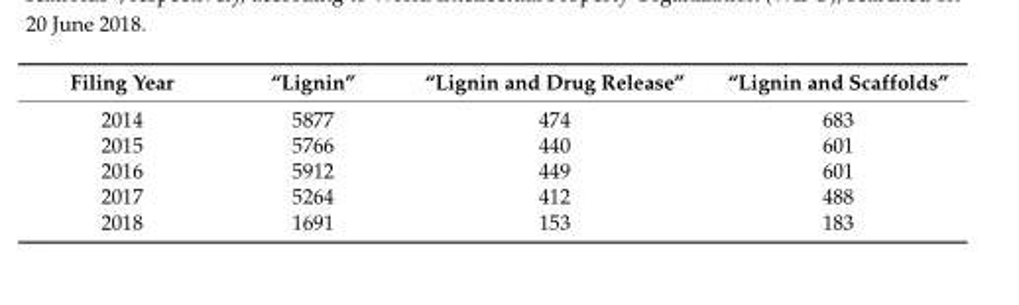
<table><thead><tr><td>Filing Year</td><td>“Lignin”</td><td>“Lignin and Drug Release”</td><td>“Lignin and Scaffolds”</td></tr></thead><tbody><tr><td>2014</td><td>5877</td><td>474</td><td>683</td></tr><tr><td>2015</td><td>5766</td><td>440</td><td>601</td></tr><tr><td>2016</td><td>5912</td><td>449</td><td>601</td></tr><tr><td>2017</td><td>5264</td><td>412</td><td>488</td></tr><tr><td>2018</td><td>1691</td><td>153</td><td>183</td></tr></tbody></table>